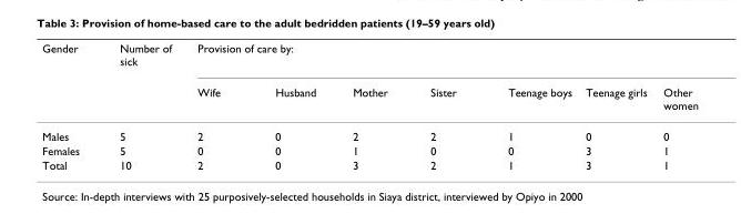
<table><thead><tr><td rowspan="2">Gender</td><td rowspan="2">Number of sick</td><td colspan="7">Provision of care by:</td></tr><tr><td>Wife</td><td>Husband</td><td>Mother</td><td>Sister</td><td>Teenage boys</td><td>Teenage girls</td><td>Other women</td></tr></thead><tbody><tr><td>Males</td><td>5</td><td>2</td><td>0</td><td>2</td><td>2</td><td>1</td><td>0</td><td>0</td></tr><tr><td>Females</td><td>5</td><td>0</td><td>0</td><td>1</td><td>0</td><td>0</td><td>3</td><td>1</td></tr><tr><td>Total</td><td>10</td><td>2</td><td>0</td><td>3</td><td>2</td><td>1</td><td>3</td><td>1</td></tr></tbody></table>